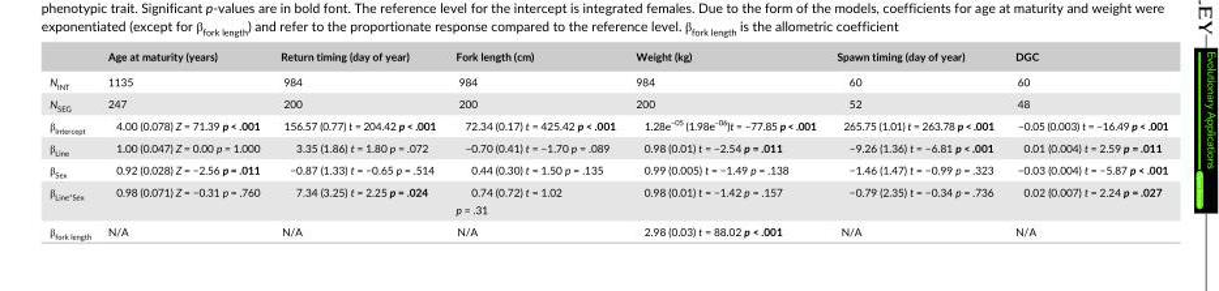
<table><thead><tr><td></td><td>Age at maturity (years)</td><td>Return timing (day of year)</td><td>Fork length (cm)</td><td>Weight (kg)</td><td>Spawn timing (day of year)</td><td>DGC</td></tr></thead><tbody><tr><td>N<sub>INT</sub></td><td>1135</td><td>984</td><td>984</td><td>984</td><td>60</td><td>60</td></tr><tr><td>N<sub>SEG</sub></td><td>247</td><td>200</td><td>200</td><td>200</td><td>52</td><td>48</td></tr><tr><td>β<sub>Intercept</sub></td><td>4.00 (0.078) Z = 71.39 p &lt; .001</td><td>156.57 (0.77) t = 204.42 p &lt; .001</td><td>72.34 (0.17) t = 425.42 p &lt; .001</td><td>1.28e<sup>−05</sup> (1.98e<sup>−06</sup>)t = −77.85 p &lt; .001</td><td>265.75 (1.01) t = 263.78 p &lt; .001</td><td>−0.05 (0.003) t = −16.49 p &lt; .001</td></tr><tr><td>β<sub>Line</sub></td><td>1.00 (0.047) Z = 0.00 p = 1.000</td><td>3.35 (1.86) t = 1.80 p = .072</td><td>−0.70 (0.41) t = −1.70 p = .089</td><td>0.98 (0.01) t = −2.54 p = .011</td><td>−9.26 (1.36) t = −6.81 p &lt; .001</td><td>0.01 (0.004) t = 2.59 p = .011</td></tr><tr><td>β<sub>Sex</sub></td><td>0.92 (0.028) Z = −2.56 p = .011</td><td>−0.87 (1.33) t = −0.65 p = .514</td><td>0.44 (0.30) t = 1.50 p = .135</td><td>0.99 (0.005) t = −1.49 p = .138</td><td>−1.46 (1.47) t = −0.99 p = .323</td><td>−0.03 (0.004) t = −5.87 p &lt; .001</td></tr><tr><td>β<sub>Line*Sex</sub></td><td>0.98 (0.071) Z = −0.31 p = .760</td><td>7.34 (3.25) t = 2.25 p = .024</td><td>0.74 (0.72) t = 1.02 p = .31</td><td>0.98 (0.01) t = −1.42 p = .157</td><td>−0.79 (2.35) t = −0.34 p = .736</td><td>0.02 (0.007) t = 2.24 p = .027</td></tr><tr><td>β<sub>fork length</sub></td><td>N/A</td><td>N/A</td><td>N/A</td><td>2.98 (0.03) t = 88.02 p &lt; .001</td><td>N/A</td><td>N/A</td></tr></tbody></table>